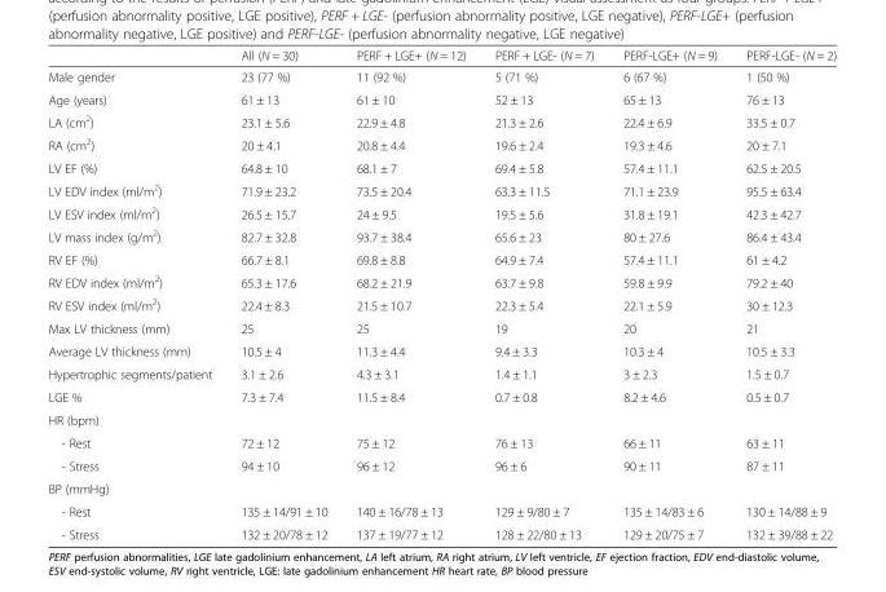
<table><thead><tr><td></td><td>All (N = 30)</td><td>PERF + LGE+ (N = 12)</td><td>PERF + LGE- (N = 7)</td><td>PERF-LGE+ (N = 9)</td><td>PERF-LGE- (N = 2)</td></tr></thead><tbody><tr><td>Male gender</td><td>23 (77 %)</td><td>11 (92 %)</td><td>5 (71 %)</td><td>6 (67 %)</td><td>1 (50 %)</td></tr><tr><td>Age (years)</td><td>61 ± 13</td><td>61 ± 10</td><td>52 ± 13</td><td>65 ± 13</td><td>76 ± 13</td></tr><tr><td>LA (cm<sup>2</sup>)</td><td>23.1 ± 5.6</td><td>22.9 ± 4.8</td><td>21.3 ± 2.6</td><td>22.4 ± 6.9</td><td>33.5 ± 0.7</td></tr><tr><td>RA (cm<sup>2</sup>)</td><td>20 ± 4.1</td><td>20.8 ± 4.4</td><td>19.6 ± 2.4</td><td>19.3 ± 4.6</td><td>20 ± 7.1</td></tr><tr><td>LV EF (%)</td><td>64.8 ± 10</td><td>68.1 ± 7</td><td>69.4 ± 5.8</td><td>57.4 ± 11.1</td><td>62.5 ± 20.5</td></tr><tr><td>LV EDV index (ml/m<sup>2</sup>)</td><td>71.9 ± 23.2</td><td>73.5 ± 20.4</td><td>63.3 ± 11.5</td><td>71.1 ± 23.9</td><td>95.5 ± 63.4</td></tr><tr><td>LV ESV index (ml/m<sup>2</sup>)</td><td>26.5 ± 15.7</td><td>24 ± 9.5</td><td>19.5 ± 5.6</td><td>31.8 ± 19.1</td><td>42.3 ± 42.7</td></tr><tr><td>LV mass index (g/m<sup>2</sup>)</td><td>82.7 ± 32.8</td><td>93.7 ± 38.4</td><td>65.6 ± 23</td><td>80 ± 27.6</td><td>86.4 ± 43.4</td></tr><tr><td>RV EF (%)</td><td>66.7 ± 8.1</td><td>69.8 ± 8.8</td><td>64.9 ± 7.4</td><td>57.4 ± 11.1</td><td>61 ± 4.2</td></tr><tr><td>RV EDV index (ml/m<sup>2</sup>)</td><td>65.3 ± 17.6</td><td>68.2 ± 21.9</td><td>63.7 ± 9.8</td><td>59.8 ± 9.9</td><td>79.2 ± 40</td></tr><tr><td>RV ESV index (ml/m<sup>2</sup>)</td><td>22.4 ± 8.3</td><td>21.5 ± 10.7</td><td>22.3 ± 5.4</td><td>22.1 ± 5.9</td><td>30 ± 12.3</td></tr><tr><td>Max LV thickness (mm)</td><td>25</td><td>25</td><td>19</td><td>20</td><td>21</td></tr><tr><td>Average LV thickness (mm)</td><td>10.5 ± 4</td><td>11.3 ± 4.4</td><td>9.4 ± 3.3</td><td>10.3 ± 4</td><td>10.5 ± 3.3</td></tr><tr><td>Hypertrophic segments/patient</td><td>3.1 ± 2.6</td><td>4.3 ± 3.1</td><td>1.4 ± 1.1</td><td>3 ± 2.3</td><td>1.5 ± 0.7</td></tr><tr><td>LGE %</td><td>7.3 ± 7.4</td><td>11.5 ± 8.4</td><td>0.7 ± 0.8</td><td>8.2 ± 4.6</td><td>0.5 ± 0.7</td></tr><tr><td colspan="6">HR (bpm)</td></tr><tr><td>- Rest</td><td>72 ± 12</td><td>75 ± 12</td><td>76 ± 13</td><td>66 ± 11</td><td>63 ± 11</td></tr><tr><td>- Stress</td><td>94 ± 10</td><td>96 ± 12</td><td>96 ± 6</td><td>90 ± 11</td><td>87 ± 11</td></tr><tr><td colspan="6">BP (mmHg)</td></tr><tr><td>- Rest</td><td>135 ± 14/91 ± 10</td><td>140 ± 16/78 ± 13</td><td>129 ± 9/80 ± 7</td><td>135 ± 14/83 ± 6</td><td>130 ± 14/88 ± 9</td></tr><tr><td>- Stress</td><td>132 ± 20/78 ± 12</td><td>137 ± 19/77 ± 12</td><td>128 ± 22/80 ± 13</td><td>129 ± 20/75 ± 7</td><td>132 ± 39/88 ± 22</td></tr></tbody></table>